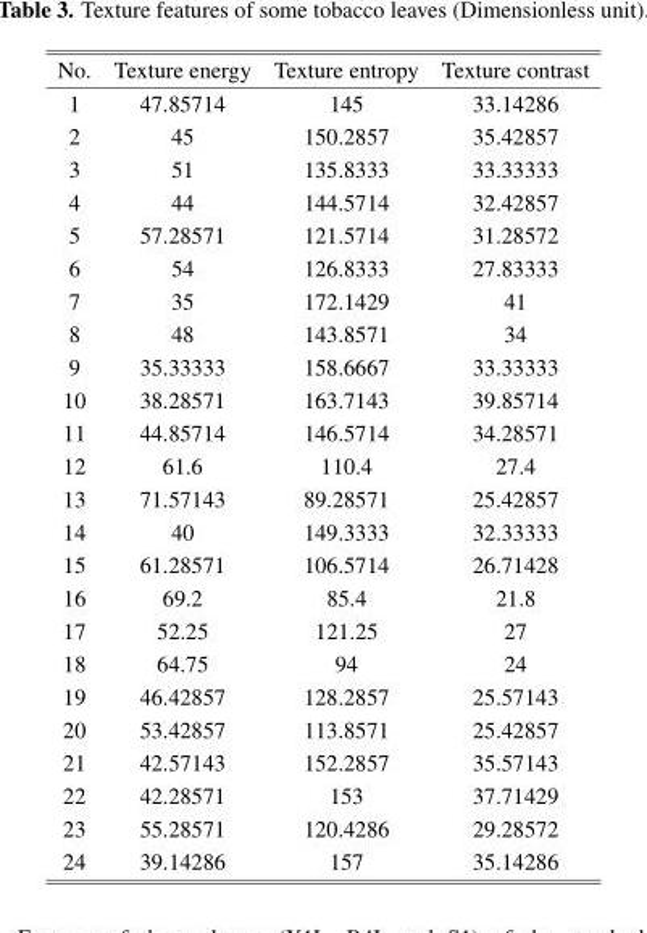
<table><thead><tr><td>No.</td><td>Texture energy</td><td>Texture entropy</td><td>Texture contrast</td></tr></thead><tbody><tr><td>1</td><td>47.85714</td><td>145</td><td>33.14286</td></tr><tr><td>2</td><td>45</td><td>150.2857</td><td>35.42857</td></tr><tr><td>3</td><td>51</td><td>135.8333</td><td>33.33333</td></tr><tr><td>4</td><td>44</td><td>144.5714</td><td>32.42857</td></tr><tr><td>5</td><td>57.28571</td><td>121.5714</td><td>31.28572</td></tr><tr><td>6</td><td>54</td><td>126.8333</td><td>27.83333</td></tr><tr><td>7</td><td>35</td><td>172.1429</td><td>41</td></tr><tr><td>8</td><td>48</td><td>143.8571</td><td>34</td></tr><tr><td>9</td><td>35.33333</td><td>158.6667</td><td>33.33333</td></tr><tr><td>10</td><td>38.28571</td><td>163.7143</td><td>39.85714</td></tr><tr><td>11</td><td>44.85714</td><td>146.5714</td><td>34.28571</td></tr><tr><td>12</td><td>61.6</td><td>110.4</td><td>27.4</td></tr><tr><td>13</td><td>71.57143</td><td>89.28571</td><td>25.42857</td></tr><tr><td>14</td><td>40</td><td>149.3333</td><td>32.33333</td></tr><tr><td>15</td><td>61.28571</td><td>106.5714</td><td>26.71428</td></tr><tr><td>16</td><td>69.2</td><td>85.4</td><td>21.8</td></tr><tr><td>17</td><td>52.25</td><td>121.25</td><td>27</td></tr><tr><td>18</td><td>64.75</td><td>94</td><td>24</td></tr><tr><td>19</td><td>46.42857</td><td>128.2857</td><td>25.57143</td></tr><tr><td>20</td><td>53.42857</td><td>113.8571</td><td>25.42857</td></tr><tr><td>21</td><td>42.57143</td><td>152.2857</td><td>35.57143</td></tr><tr><td>22</td><td>42.28571</td><td>153</td><td>37.71429</td></tr><tr><td>23</td><td>55.28571</td><td>120.4286</td><td>29.28572</td></tr><tr><td>24</td><td>39.14286</td><td>157</td><td>35.14286</td></tr></tbody></table>